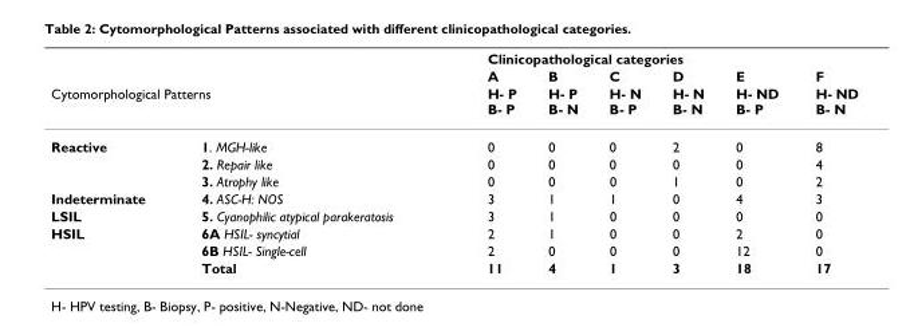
<table><thead><tr><td rowspan="2"></td><td rowspan="2"></td><td colspan="6">Clinicopathological categories</td></tr><tr><td rowspan="2">A H- P B- P</td><td rowspan="2">B H- P B- N</td><td rowspan="2">C H- N B- P</td><td rowspan="2">D H- N B- N</td><td rowspan="2">E H- ND B- P</td><td rowspan="2">F H- ND B- N</td></tr><tr><td colspan="2">Cytomorphological Patterns</td></tr></thead><tbody><tr><td rowspan="3">Reactive</td><td>1. MGH-like</td><td>0</td><td>0</td><td>0</td><td>2</td><td>0</td><td>8</td></tr><tr><td>2. Repair like</td><td>0</td><td>0</td><td>0</td><td>0</td><td>0</td><td>4</td></tr><tr><td>3. Atrophy like</td><td>0</td><td>0</td><td>0</td><td>1</td><td>0</td><td>2</td></tr><tr><td>Indeterminate</td><td>4. ASC-H: NOS</td><td>3</td><td>1</td><td>1</td><td>0</td><td>4</td><td>3</td></tr><tr><td>LSIL</td><td>5. Cyanophilic atypical parakeratosis</td><td>3</td><td>1</td><td>0</td><td>0</td><td>0</td><td>0</td></tr><tr><td rowspan="3">HSIL</td><td>6A HSIL- syncytial</td><td>2</td><td>1</td><td>0</td><td>0</td><td>2</td><td>0</td></tr><tr><td>6B HSIL- Single-cell</td><td>2</td><td>0</td><td>0</td><td>0</td><td>12</td><td>0</td></tr><tr><td>Total</td><td>11</td><td>4</td><td>1</td><td>3</td><td>18</td><td>17</td></tr></tbody></table>